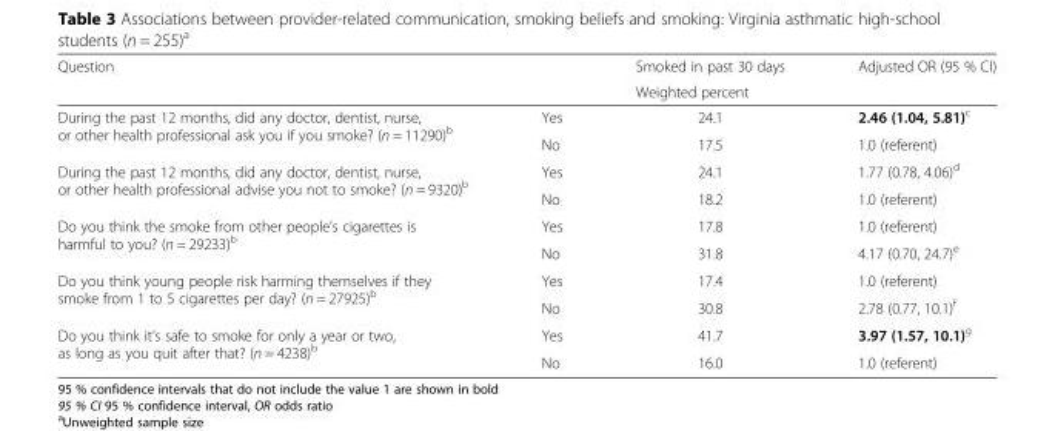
<table><thead><tr><td rowspan="2">Question</td><td rowspan="2"></td><td rowspan="2">Smoked in past 30 days Weighted percent</td><td rowspan="2">Adjusted OR (95 % CI)</td></tr><tr></tr></thead><tbody><tr><td rowspan="2">During the past 12 months, did any doctor, dentist, nurse, or other health professional ask you if you smoke? (n = 11290)<sup>b</sup></td><td>Yes</td><td>24.1</td><td>2.46 (1.04, 5.81)<sup>c</sup></td></tr><tr><td>No</td><td>17.5</td><td>1.0 (referent)</td></tr><tr><td rowspan="2">During the past 12 months, did any doctor, dentist, nurse, or other health professional advise you not to smoke? (n = 9320)<sup>b</sup></td><td>Yes</td><td>24.1</td><td>1.77 (0.78, 4.06)<sup>d</sup></td></tr><tr><td>No</td><td>18.2</td><td>1.0 (referent)</td></tr><tr><td rowspan="2">Do you think the smoke from other people’s cigarettes is harmful to you? (n = 29233)<sup>b</sup></td><td>Yes</td><td>17.8</td><td>1.0 (referent)</td></tr><tr><td>No</td><td>31.8</td><td>4.17 (0.70, 24.7)<sup>e</sup></td></tr><tr><td rowspan="2">Do you think young people risk harming themselves if they smoke from 1 to 5 cigarettes per day? (n = 27925)<sup>b</sup></td><td>Yes</td><td>17.4</td><td>1.0 (referent)</td></tr><tr><td>No</td><td>30.8</td><td>2.78 (0.77, 10.1)<sup>f</sup></td></tr><tr><td rowspan="2">Do you think it’s safe to smoke for only a year or two, as long as you quit after that? (n = 4238)<sup>b</sup></td><td>Yes</td><td>41.7</td><td>3.97 (1.57, 10.1)<sup>g</sup></td></tr><tr><td>No</td><td>16.0</td><td>1.0 (referent)</td></tr></tbody></table>